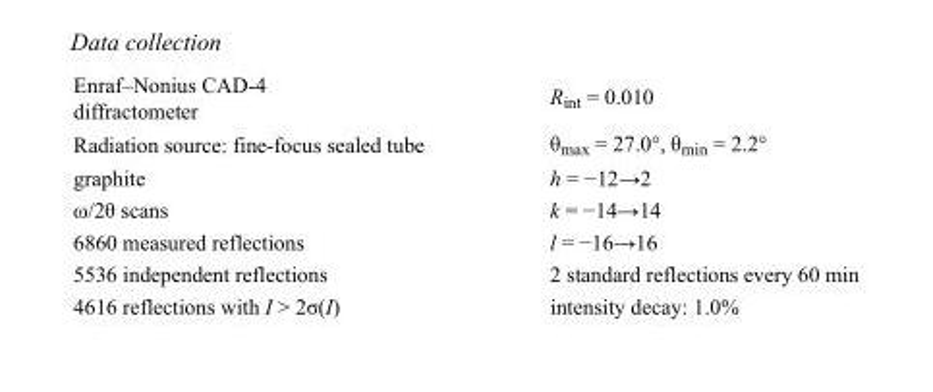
<table><tbody><tr><td>Enraf–Nonius CAD-4 diffractometer</td><td>R<sub>int</sub> = 0.010</td></tr><tr><td>Radiation source: fine-focus sealed tube</td><td>θ<sub>max</sub> = 27.0°, θ<sub>min</sub> = 2.2°</td></tr><tr><td>graphite</td><td>h = −12→2</td></tr><tr><td>ω/2θ scans</td><td>k = −14→14</td></tr><tr><td>6860 measured reflections</td><td>l = −16→16</td></tr><tr><td>5536 independent reflections</td><td>2 standard reflections every 60 min</td></tr><tr><td>4616 reflections with I &gt; 2σ(I)</td><td>intensity decay: 1.0%</td></tr></tbody></table>